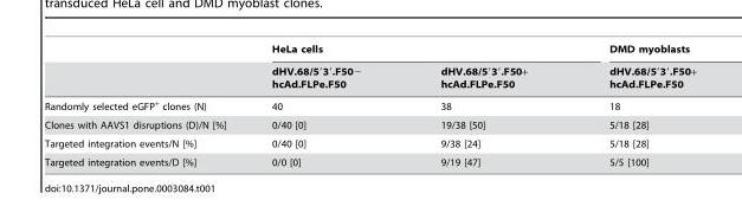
<table><thead><tr><td rowspan="2"></td><td colspan="2">HeLa cells</td><td rowspan="2">DMD myoblasts dHV.68/5′3′.F50+ hcAd.FLPe.F50</td></tr><tr><td>dHV.68/5′3′.F50− hcAd.FLPe.F50</td><td>dHV.68/5′3′.F50+ hcAd.FLPe.F50</td></tr></thead><tbody><tr><td>Randomly selected eGFP<sup>+</sup> clones (N)</td><td>40</td><td>38</td><td>18</td></tr><tr><td>Clones with AAVS1 disruptions (D)/N [%]</td><td>0/40 [0]</td><td>19/38 [50]</td><td>5/18 [28]</td></tr><tr><td>Targeted integration events/N [%]</td><td>0/40 [0]</td><td>9/38 [24]</td><td>5/18 [28]</td></tr><tr><td>Targeted integration events/D [%]</td><td>0/0 [0]</td><td>9/19 [47]</td><td>5/5 [100]</td></tr></tbody></table>